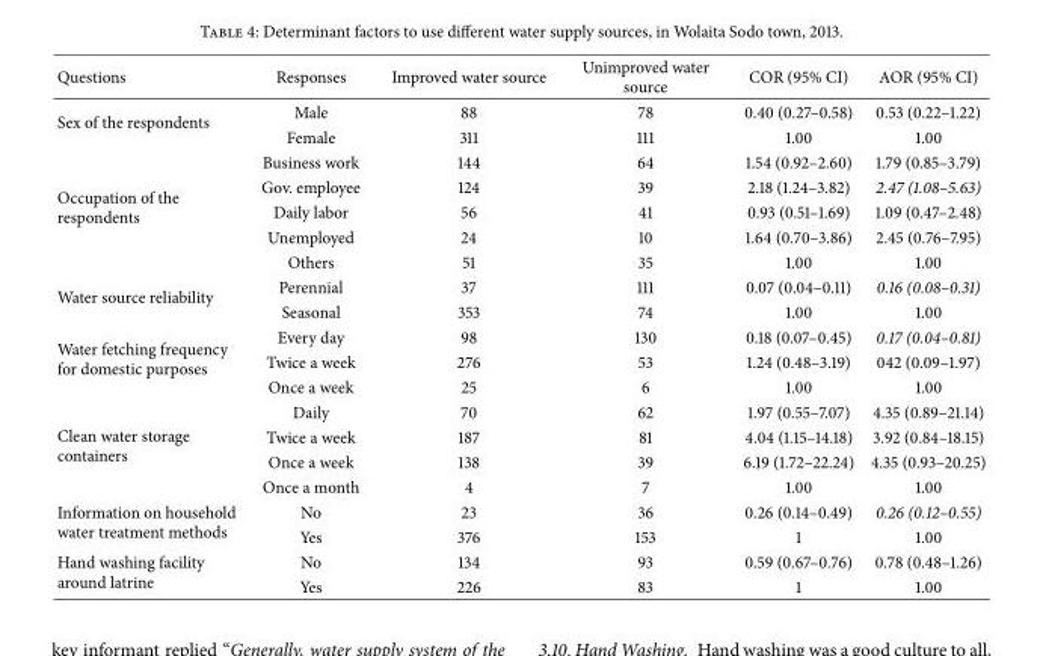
<table><thead><tr><td>Questions</td><td>Responses</td><td>Improved water source</td><td>Unimproved water source</td><td>COR (95% CI)</td><td>AOR (95% CI)</td></tr></thead><tbody><tr><td rowspan="2">Sex of the respondents</td><td>Male</td><td>88</td><td>78</td><td>0.40 (0.27–0.58)</td><td>0.53 (0.22–1.22)</td></tr><tr><td>Female</td><td>311</td><td>111</td><td>1.00</td><td>1.00</td></tr><tr><td rowspan="5">Occupation of the respondents</td><td>Business work</td><td>144</td><td>64</td><td>1.54 (0.92–2.60)</td><td>1.79 (0.85–3.79)</td></tr><tr><td>Gov. employee</td><td>124</td><td>39</td><td>2.18 (1.24–3.82)</td><td>2.47 (1.08–5.63)</td></tr><tr><td>Daily labor</td><td>56</td><td>41</td><td>0.93 (0.51–1.69)</td><td>1.09 (0.47–2.48)</td></tr><tr><td>Unemployed</td><td>24</td><td>10</td><td>1.64 (0.70–3.86)</td><td>2.45 (0.76–7.95)</td></tr><tr><td>Others</td><td>51</td><td>35</td><td>1.00</td><td>1.00</td></tr><tr><td rowspan="2">Water source reliability</td><td>Perennial</td><td>37</td><td>111</td><td>0.07 (0.04–0.11)</td><td>0.16 (0.08–0.31)</td></tr><tr><td>Seasonal</td><td>353</td><td>74</td><td>1.00</td><td>1.00</td></tr><tr><td rowspan="3">Water fetching frequency for domestic purposes</td><td>Every day</td><td>98</td><td>130</td><td>0.18 (0.07–0.45)</td><td>0.17 (0.04–0.81)</td></tr><tr><td>Twice a week</td><td>276</td><td>53</td><td>1.24 (0.48–3.19)</td><td>042 (0.09–1.97)</td></tr><tr><td>Once a week</td><td>25</td><td>6</td><td>1.00</td><td>1.00</td></tr><tr><td rowspan="4">Clean water storage containers</td><td>Daily</td><td>70</td><td>62</td><td>1.97 (0.55–7.07)</td><td>4.35 (0.89–21.14)</td></tr><tr><td>Twice a week</td><td>187</td><td>81</td><td>4.04 (1.15–14.18)</td><td>3.92 (0.84–18.15)</td></tr><tr><td>Once a week</td><td>138</td><td>39</td><td>6.19 (1.72–22.24)</td><td>4.35 (0.93–20.25)</td></tr><tr><td>Once a month</td><td>4</td><td>7</td><td>1.00</td><td>1.00</td></tr><tr><td rowspan="2">Information on household water treatment methods</td><td>No</td><td>23</td><td>36</td><td>0.26 (0.14–0.49)</td><td>0.26 (0.12–0.55)</td></tr><tr><td>Yes</td><td>376</td><td>153</td><td>1</td><td>1.00</td></tr><tr><td rowspan="2">Hand washing facility around latrine</td><td>No</td><td>134</td><td>93</td><td>0.59 (0.67–0.76)</td><td>0.78 (0.48–1.26)</td></tr><tr><td>Yes</td><td>226</td><td>83</td><td>1</td><td>1.00</td></tr></tbody></table>